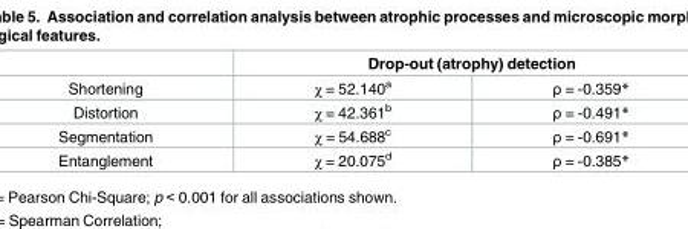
<table><thead><tr><td rowspan="2">Shortening</td><td colspan="2">Drop-out (atrophy) detection</td></tr><tr><td>χ = 52.140<sup>a</sup></td><td>ρ = -0.359*</td></tr></thead><tbody><tr><td>Distortion</td><td>χ = 42.361<sup>b</sup></td><td>ρ = -0.491*</td></tr><tr><td>Segmentation</td><td>χ = 54.688<sup>c</sup></td><td>ρ = -0.691*</td></tr><tr><td>Entanglement</td><td>χ = 20.075<sup>d</sup></td><td>ρ = -0.385*</td></tr></tbody></table>